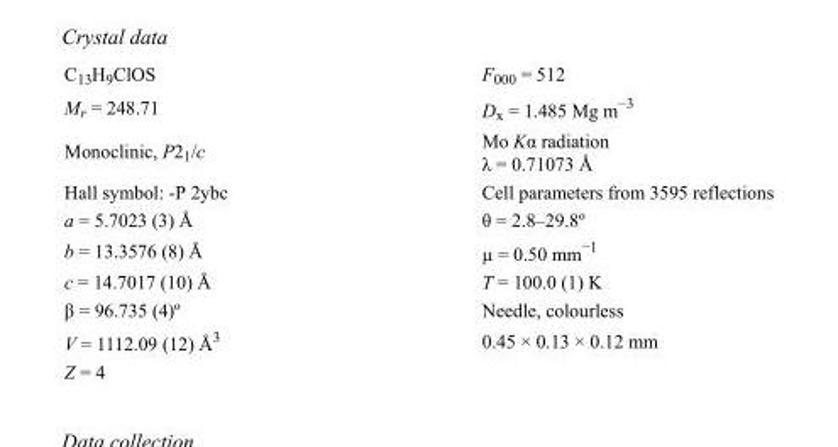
<table><tbody><tr><td>C<sub>13</sub>H<sub>9</sub>ClOS</td><td>F<sub>000</sub> = 512</td></tr><tr><td>M<sub>r</sub> = 248.71</td><td>D<sub>x</sub> = 1.485 Mg m<sup>−3</sup></td></tr><tr><td>Monoclinic, P2<sub>1</sub>/c</td><td>Mo Kα radiation λ = 0.71073 Å</td></tr><tr><td>Hall symbol: -P 2ybc</td><td>Cell parameters from 3595 reflections</td></tr><tr><td>a = 5.7023 (3) Å</td><td>θ = 2.8–29.8º</td></tr><tr><td>b = 13.3576 (8) Å</td><td>µ = 0.50 mm<sup>−1</sup></td></tr><tr><td>c = 14.7017 (10) Å</td><td>T = 100.0 (1) K</td></tr><tr><td>β = 96.735 (4)º</td><td>Needle, colourless</td></tr><tr><td>V = 1112.09 (12) Å<sup>3</sup></td><td>0.45 × 0.13 × 0.12 mm</td></tr><tr><td>Z = 4</td><td></td></tr></tbody></table>